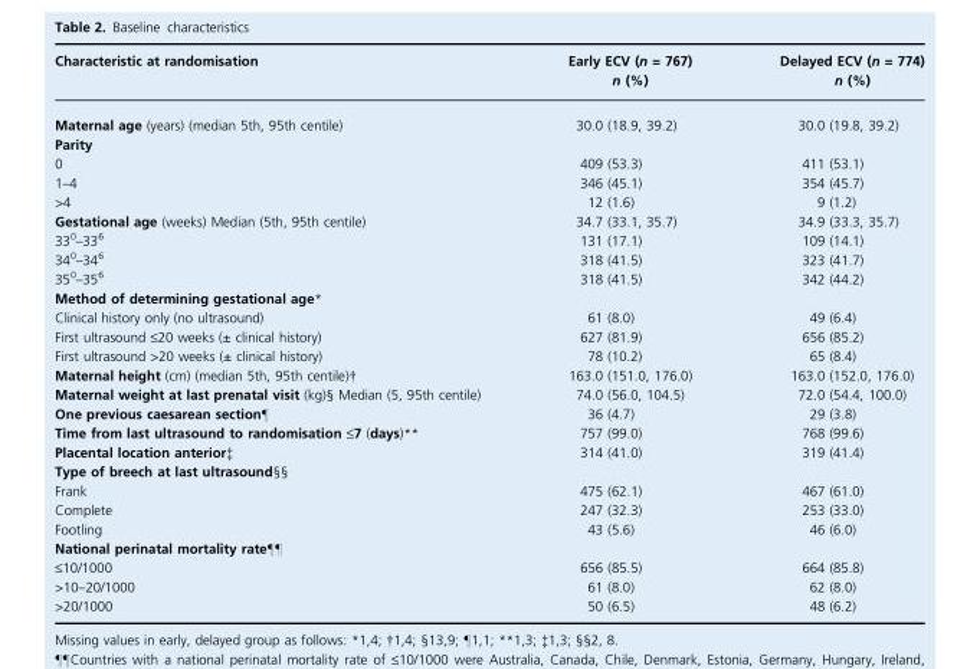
<table><thead><tr><td>Characteristic at randomisation</td><td>Early ECV (n = 767) n (%)</td><td>Delayed ECV (n = 774) n (%)</td></tr></thead><tbody><tr><td>Maternal age (years) (median 5th, 95th centile)</td><td>30.0 (18.9, 39.2)</td><td>30.0 (19.8, 39.2)</td></tr><tr><td colspan="3">Parity</td></tr><tr><td>0</td><td>409 (53.3)</td><td>411 (53.1)</td></tr><tr><td>1–4</td><td>346 (45.1)</td><td>354 (45.7)</td></tr><tr><td>&gt;4</td><td>12 (1.6)</td><td>9 (1.2)</td></tr><tr><td>Gestational age (weeks) Median (5th, 95th centile)</td><td>34.7 (33.1, 35.7)</td><td>34.9 (33.3, 35.7)</td></tr><tr><td>33<sup>0</sup>–33<sup>6</sup></td><td>131 (17.1)</td><td>109 (14.1)</td></tr><tr><td>34<sup>0</sup>–34<sup>6</sup></td><td>318 (41.5)</td><td>323 (41.7)</td></tr><tr><td>35<sup>0</sup>–35<sup>6</sup></td><td>318 (41.5)</td><td>342 (44.2)</td></tr><tr><td colspan="3">Method of determining gestational age*</td></tr><tr><td>Clinical history only (no ultrasound)</td><td>61 (8.0)</td><td>49 (6.4)</td></tr><tr><td>First ultrasound ≤20 weeks (± clinical history)</td><td>627 (81.9)</td><td>656 (85.2)</td></tr><tr><td>First ultrasound &gt;20 weeks (± clinical history)</td><td>78 (10.2)</td><td>65 (8.4)</td></tr><tr><td>Maternal height (cm) (median 5th, 95th centile)†</td><td>163.0 (151.0, 176.0)</td><td>163.0 (152.0, 176.0)</td></tr><tr><td>Maternal weight at last prenatal visit (kg)§ Median (5, 95th centile)</td><td>74.0 (56.0, 104.5)</td><td>72.0 (54.4, 100.0)</td></tr><tr><td>One previous caesarean section–</td><td>36 (4.7)</td><td>29 (3.8)</td></tr><tr><td>Time from last ultrasound to randomisation ≤7 (days)**</td><td>757 (99.0)</td><td>768 (99.6)</td></tr><tr><td>Placental location anterior‡</td><td>314 (41.0)</td><td>319 (41.4)</td></tr><tr><td colspan="3">Type of breech at last ultrasound§§</td></tr><tr><td>Frank</td><td>475 (62.1)</td><td>467 (61.0)</td></tr><tr><td>Complete</td><td>247 (32.3)</td><td>253 (33.0)</td></tr><tr><td>Footling</td><td>43 (5.6)</td><td>46 (6.0)</td></tr><tr><td colspan="3">National perinatal mortality rate––</td></tr><tr><td>≤10/1000</td><td>656 (85.5)</td><td>664 (85.8)</td></tr><tr><td>&gt;10–20/1000</td><td>61 (8.0)</td><td>62 (8.0)</td></tr><tr><td>&gt;20/1000</td><td>50 (6.5)</td><td>48 (6.2)</td></tr></tbody></table>